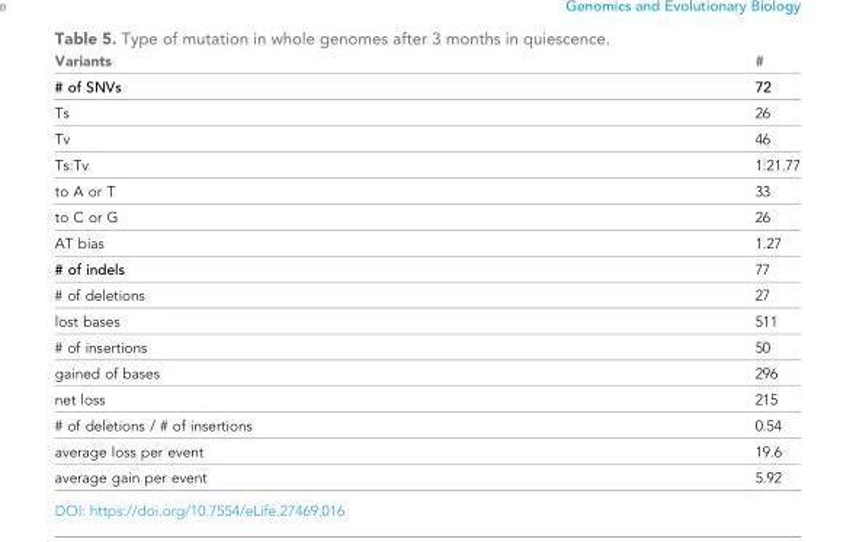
<table><thead><tr><td>Variants</td><td>#</td></tr></thead><tbody><tr><td># of SNVs</td><td>72</td></tr><tr><td>Ts</td><td>26</td></tr><tr><td>Tv</td><td>46</td></tr><tr><td>Ts:Tv</td><td>1:21.77</td></tr><tr><td>to A or T</td><td>33</td></tr><tr><td>to C or G</td><td>26</td></tr><tr><td>AT bias</td><td>1.27</td></tr><tr><td># of indels</td><td>77</td></tr><tr><td># of deletions</td><td>27</td></tr><tr><td>lost bases</td><td>511</td></tr><tr><td># of insertions</td><td>50</td></tr><tr><td>gained of bases</td><td>296</td></tr><tr><td>net loss</td><td>215</td></tr><tr><td># of deletions / # of insertions</td><td>0.54</td></tr><tr><td>average loss per event</td><td>19.6</td></tr><tr><td>average gain per event</td><td>5.92</td></tr></tbody></table>